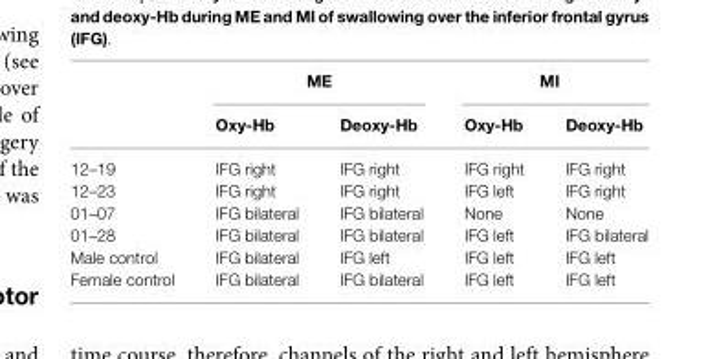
<table><thead><tr><td rowspan="2"></td><td colspan="2">ME</td><td colspan="2">MI</td></tr><tr><td>Oxy-Hb</td><td>Deoxy-Hb</td><td>Oxy-Hb</td><td>Deoxy-Hb</td></tr></thead><tbody><tr><td>12–19</td><td>IFG right</td><td>IFG right</td><td>IFG right</td><td>IFG right</td></tr><tr><td>12–23</td><td>IFG right</td><td>IFG right</td><td>IFG left</td><td>IFG right</td></tr><tr><td>01–07</td><td>IFG bilateral</td><td>IFG bilateral</td><td>None</td><td>None</td></tr><tr><td>01–28</td><td>IFG bilateral</td><td>IFG bilateral</td><td>IFG left</td><td>IFG bilateral</td></tr><tr><td>Male control</td><td>IFG bilateral</td><td>IFG left</td><td>IFG left</td><td>IFG left</td></tr><tr><td>Female control</td><td>IFG bilateral</td><td>IFG bilateral</td><td>IFG left</td><td>IFG left</td></tr></tbody></table>